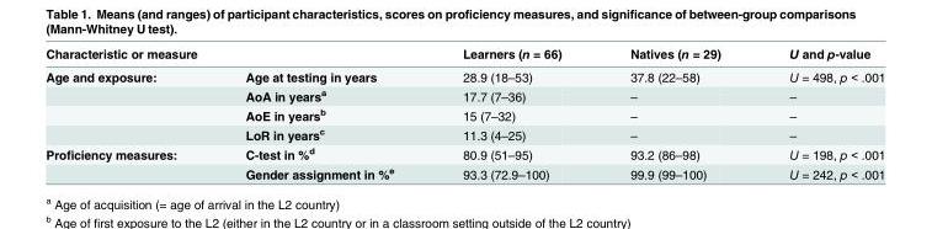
<table><thead><tr><td colspan="2">Characteristic or measure</td><td rowspan="2">Learners (n = 66) 28.9 (18–53)</td><td rowspan="2">Natives (n = 29) 37.8 (22–58)</td><td rowspan="2">U and p-value U = 498, p &lt; .001</td></tr><tr><td>Age and exposure:</td><td>Age at testing in years</td></tr></thead><tbody><tr><td></td><td>AoA in years<sup>a</sup></td><td>17.7 (7–36)</td><td>–</td><td>–</td></tr><tr><td></td><td>AoE in years<sup>b</sup></td><td>15 (7–32)</td><td>–</td><td>–</td></tr><tr><td></td><td>LoR in years<sup>c</sup></td><td>11.3 (4–25)</td><td>–</td><td>–</td></tr><tr><td rowspan="2">Proficiency measures:</td><td>C-test in %<sup>d</sup></td><td>80.9 (51–95)</td><td>93.2 (86–98)</td><td>U = 198, p &lt; .001</td></tr><tr><td>Gender assignment in %<sup>e</sup></td><td>93.3 (72.9–100)</td><td>99.9 (99–100)</td><td>U = 242, p &lt; .001</td></tr></tbody></table>